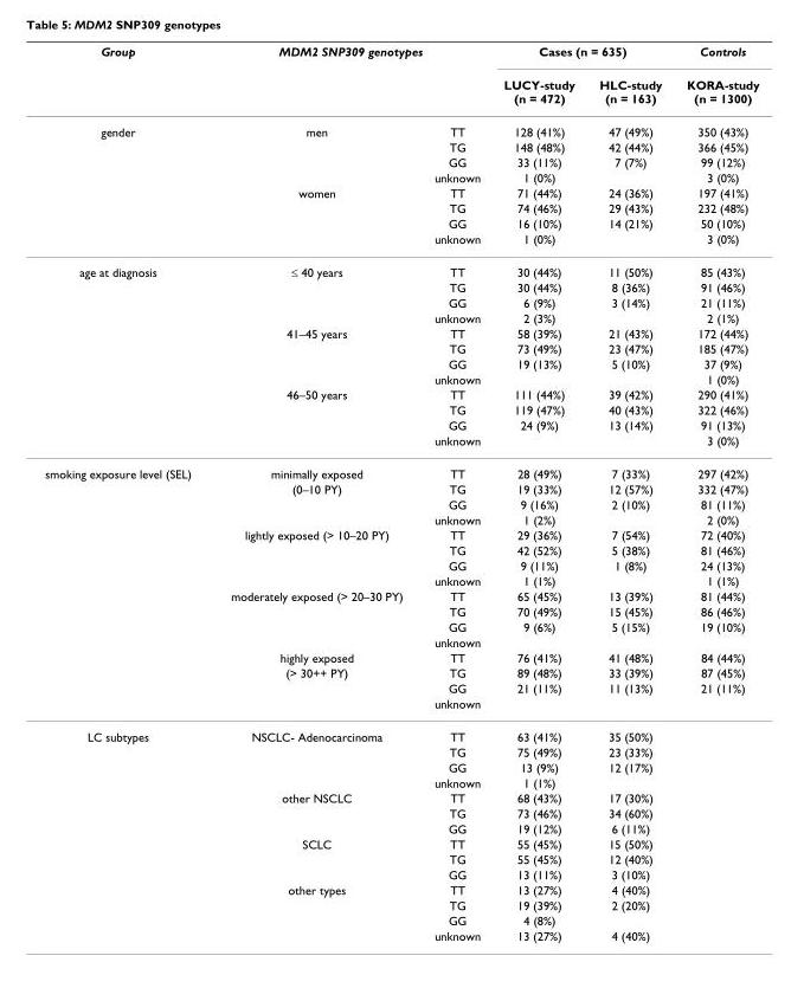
<table><thead><tr><td rowspan="2">Group</td><td colspan="2">MDM2 SNP309 genotypes</td><td colspan="2">Cases (n = 635)</td><td rowspan="2">Controls KORA-study (n = 1300)</td></tr><tr><td></td><td></td><td>LUCY-study (n = 472)</td><td>HLC-study (n = 163)</td></tr></thead><tbody><tr><td rowspan="8">gender</td><td>men</td><td>TT</td><td>128 (41%)</td><td>47 (49%)</td><td>350 (43%)</td></tr><tr><td></td><td>TG</td><td>148 (48%)</td><td>42 (44%)</td><td>366 (45%)</td></tr><tr><td></td><td>GG</td><td>33 (11%)</td><td>7 (7%)</td><td>99 (12%)</td></tr><tr><td></td><td>unknown</td><td>1 (0%)</td><td></td><td>3 (0%)</td></tr><tr><td>women</td><td>TT</td><td>71 (44%)</td><td>24 (36%)</td><td>197 (41%)</td></tr><tr><td></td><td>TG</td><td>74 (46%)</td><td>29 (43%)</td><td>232 (48%)</td></tr><tr><td></td><td>GG</td><td>16 (10%)</td><td>14 (21%)</td><td>50 (10%)</td></tr><tr><td></td><td>unknown</td><td>1 (0%)</td><td></td><td>3 (0%)</td></tr><tr><td rowspan="12">age at diagnosis</td><td>≤ 40 years</td><td>TT</td><td>30 (44%)</td><td>11 (50%)</td><td>85 (43%)</td></tr><tr><td></td><td>TG</td><td>30 (44%)</td><td>8 (36%)</td><td>91 (46%)</td></tr><tr><td></td><td>GG</td><td>6 (9%)</td><td>3 (14%)</td><td>21 (11%)</td></tr><tr><td></td><td>unknown</td><td>2 (3%)</td><td></td><td>2 (1%)</td></tr><tr><td>41–45 years</td><td>TT</td><td>58 (39%)</td><td>21 (43%)</td><td>172 (44%)</td></tr><tr><td></td><td>TG</td><td>73 (49%)</td><td>23 (47%)</td><td>185 (47%)</td></tr><tr><td></td><td>GG</td><td>19 (13%)</td><td>5 (10%)</td><td>37 (9%)</td></tr><tr><td></td><td>unknown</td><td></td><td></td><td>1 (0%)</td></tr><tr><td>46–50 years</td><td>TT</td><td>111 (44%)</td><td>39 (42%)</td><td>290 (41%)</td></tr><tr><td></td><td>TG</td><td>119 (47%)</td><td>40 (43%)</td><td>322 (46%)</td></tr><tr><td></td><td>GG</td><td>24 (9%)</td><td>13 (14%)</td><td>91 (13%)</td></tr><tr><td></td><td>unknown</td><td></td><td></td><td>3 (0%)</td></tr><tr><td rowspan="16">smoking exposure level (SEL)</td><td>minimally exposed</td><td>TT</td><td>28 (49%)</td><td>7 (33%)</td><td>297 (42%)</td></tr><tr><td>(0–10 PY)</td><td>TG</td><td>19 (33%)</td><td>12 (57%)</td><td>332 (47%)</td></tr><tr><td></td><td>GG</td><td>9 (16%)</td><td>2 (10%)</td><td>81 (11%)</td></tr><tr><td></td><td>unknown</td><td>1 (2%)</td><td></td><td>2 (0%)</td></tr><tr><td>lightly exposed (&gt; 10–20 PY)</td><td>TT</td><td>29 (36%)</td><td>7 (54%)</td><td>72 (40%)</td></tr><tr><td></td><td>TG</td><td>42 (52%)</td><td>5 (38%)</td><td>81 (46%)</td></tr><tr><td></td><td>GG</td><td>9 (11%)</td><td>1 (8%)</td><td>24 (13%)</td></tr><tr><td></td><td>unknown</td><td>1 (1%)</td><td></td><td>1 (1%)</td></tr><tr><td>moderately exposed (&gt; 20–30 PY)</td><td>TT</td><td>65 (45%)</td><td>13 (39%)</td><td>81 (44%)</td></tr><tr><td></td><td>TG</td><td>70 (49%)</td><td>15 (45%)</td><td>86 (46%)</td></tr><tr><td></td><td>GG</td><td>9 (6%)</td><td>5 (15%)</td><td>19 (10%)</td></tr><tr><td></td><td>unknown</td><td></td><td></td><td></td></tr><tr><td>highly exposed</td><td>TT</td><td>76 (41%)</td><td>41 (48%)</td><td>84 (44%)</td></tr><tr><td>(&gt; 30++ PY)</td><td>TG</td><td>89 (48%)</td><td>33 (39%)</td><td>87 (45%)</td></tr><tr><td></td><td>GG</td><td>21 (11%)</td><td>11 (13%)</td><td>21 (11%)</td></tr><tr><td></td><td>unknown</td><td></td><td></td><td></td></tr><tr><td rowspan="14">LC subtypes</td><td>NSCLC- Adenocarcinoma</td><td>TT</td><td>63 (41%)</td><td>35 (50%)</td><td></td></tr><tr><td></td><td>TG</td><td>75 (49%)</td><td>23 (33%)</td><td></td></tr><tr><td></td><td>GG</td><td>13 (9%)</td><td>12 (17%)</td><td></td></tr><tr><td></td><td>unknown</td><td>1 (1%)</td><td></td><td></td></tr><tr><td>other NSCLC</td><td>TT</td><td>68 (43%)</td><td>17 (30%)</td><td></td></tr><tr><td></td><td>TG</td><td>73 (46%)</td><td>34 (60%)</td><td></td></tr><tr><td></td><td>GG</td><td>19 (12%)</td><td>6 (11%)</td><td></td></tr><tr><td>SCLC</td><td>TT</td><td>55 (45%)</td><td>15 (50%)</td><td></td></tr><tr><td></td><td>TG</td><td>55 (45%)</td><td>12 (40%)</td><td></td></tr><tr><td></td><td>GG</td><td>13 (11%)</td><td>3 (10%)</td><td></td></tr><tr><td>other types</td><td>TT</td><td>13 (27%)</td><td>4 (40%)</td><td></td></tr><tr><td></td><td>TG</td><td>19 (39%)</td><td>2 (20%)</td><td></td></tr><tr><td></td><td>GG</td><td>4 (8%)</td><td></td><td></td></tr><tr><td></td><td>unknown</td><td>13 (27%)</td><td>4 (40%)</td><td></td></tr></tbody></table>